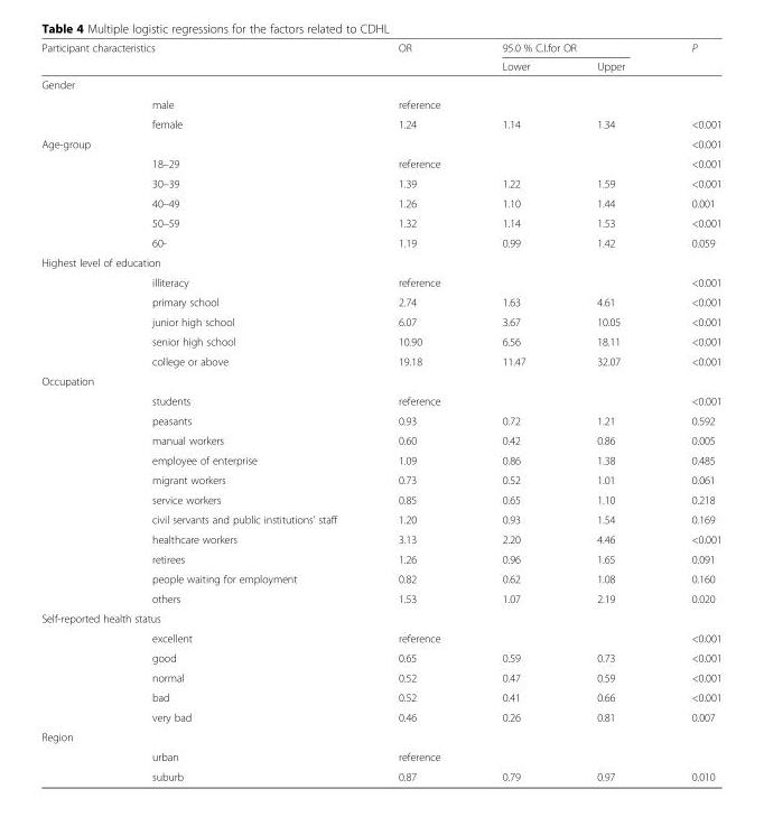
<table><thead><tr><td rowspan="2" colspan="2">Participant characteristics</td><td rowspan="3">OR</td><td colspan="2">95.0 % C.I.for OR</td><td rowspan="3">P</td></tr><tr><td rowspan="2">Lower</td><td rowspan="2">Upper</td></tr><tr><td>Gender</td><td></td></tr></thead><tbody><tr><td></td><td>male</td><td>reference</td><td></td><td></td><td></td></tr><tr><td></td><td>female</td><td>1.24</td><td>1.14</td><td>1.34</td><td>&lt;0.001</td></tr><tr><td rowspan="6">Age-group</td><td></td><td></td><td></td><td></td><td>&lt;0.001</td></tr><tr><td>18–29</td><td>reference</td><td></td><td></td><td>&lt;0.001</td></tr><tr><td>30–39</td><td>1.39</td><td>1.22</td><td>1.59</td><td>&lt;0.001</td></tr><tr><td>40–49</td><td>1.26</td><td>1.10</td><td>1.44</td><td>0.001</td></tr><tr><td>50–59</td><td>1.32</td><td>1.14</td><td>1.53</td><td>&lt;0.001</td></tr><tr><td>60-</td><td>1.19</td><td>0.99</td><td>1.42</td><td>0.059</td></tr><tr><td colspan="6">Highest level of education</td></tr><tr><td></td><td>illiteracy</td><td>reference</td><td></td><td></td><td>&lt;0.001</td></tr><tr><td></td><td>primary school</td><td>2.74</td><td>1.63</td><td>4.61</td><td>&lt;0.001</td></tr><tr><td></td><td>junior high school</td><td>6.07</td><td>3.67</td><td>10.05</td><td>&lt;0.001</td></tr><tr><td></td><td>senior high school</td><td>10.90</td><td>6.56</td><td>18.11</td><td>&lt;0.001</td></tr><tr><td></td><td>college or above</td><td>19.18</td><td>11.47</td><td>32.07</td><td>&lt;0.001</td></tr><tr><td colspan="6">Occupation</td></tr><tr><td></td><td>students</td><td>reference</td><td></td><td></td><td>&lt;0.001</td></tr><tr><td></td><td>peasants</td><td>0.93</td><td>0.72</td><td>1.21</td><td>0.592</td></tr><tr><td></td><td>manual workers</td><td>0.60</td><td>0.42</td><td>0.86</td><td>0.005</td></tr><tr><td></td><td>employee of enterprise</td><td>1.09</td><td>0.86</td><td>1.38</td><td>0.485</td></tr><tr><td></td><td>migrant workers</td><td>0.73</td><td>0.52</td><td>1.01</td><td>0.061</td></tr><tr><td></td><td>service workers</td><td>0.85</td><td>0.65</td><td>1.10</td><td>0.218</td></tr><tr><td></td><td>civil servants and public institutions’ staff</td><td>1.20</td><td>0.93</td><td>1.54</td><td>0.169</td></tr><tr><td></td><td>healthcare workers</td><td>3.13</td><td>2.20</td><td>4.46</td><td>&lt;0.001</td></tr><tr><td></td><td>retirees</td><td>1.26</td><td>0.96</td><td>1.65</td><td>0.091</td></tr><tr><td></td><td>people waiting for employment</td><td>0.82</td><td>0.62</td><td>1.08</td><td>0.160</td></tr><tr><td></td><td>others</td><td>1.53</td><td>1.07</td><td>2.19</td><td>0.020</td></tr><tr><td colspan="6">Self-reported health status</td></tr><tr><td></td><td>excellent</td><td>reference</td><td></td><td></td><td>&lt;0.001</td></tr><tr><td></td><td>good</td><td>0.65</td><td>0.59</td><td>0.73</td><td>&lt;0.001</td></tr><tr><td></td><td>normal</td><td>0.52</td><td>0.47</td><td>0.59</td><td>&lt;0.001</td></tr><tr><td></td><td>bad</td><td>0.52</td><td>0.41</td><td>0.66</td><td>&lt;0.001</td></tr><tr><td></td><td>very bad</td><td>0.46</td><td>0.26</td><td>0.81</td><td>0.007</td></tr><tr><td colspan="6">Region</td></tr><tr><td></td><td>urban</td><td>reference</td><td></td><td></td><td></td></tr><tr><td></td><td>suburb</td><td>0.87</td><td>0.79</td><td>0.97</td><td>0.010</td></tr></tbody></table>